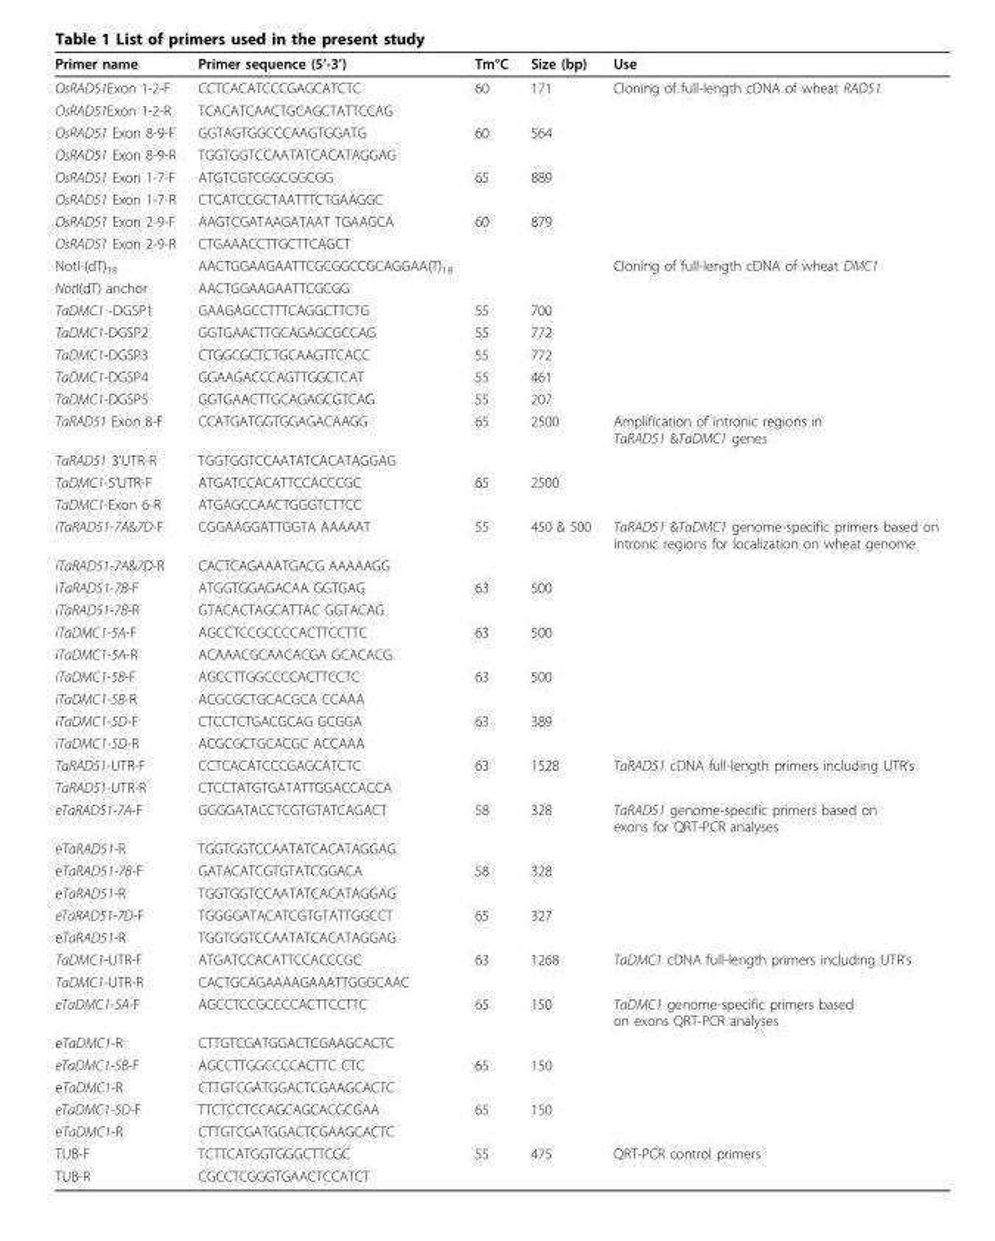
<table><thead><tr><td>Primer name</td><td>Primer sequence (5’-3’)</td><td>Tm°C</td><td>Size (bp)</td><td>Use</td></tr></thead><tbody><tr><td>OsRAD51Exon 1-2-F</td><td>CCTCACATCCCGAGCATCTC</td><td>60</td><td>171</td><td>Cloning of full-length cDNA of wheat RAD51</td></tr><tr><td>OsRAD51Exon 1-2-R</td><td>TCACATCAACTGCAGCTATTCCAG</td><td></td><td></td><td></td></tr><tr><td>OsRAD51 Exon 8-9-F</td><td>GGTAGTGGCCCAAGTGGATG</td><td>60</td><td>564</td><td></td></tr><tr><td>OsRAD51 Exon 8-9-R</td><td>TGGTGGTCCAATATCACATAGGAG</td><td></td><td></td><td></td></tr><tr><td>OsRAD51 Exon 1-7-F</td><td>ATGTCGTCGGCGGCGG</td><td>65</td><td>889</td><td></td></tr><tr><td>OsRAD51 Exon 1-7-R</td><td>CTCATCCGCTAATTTCTGAAGGC</td><td></td><td></td><td></td></tr><tr><td>OsRAD51 Exon 2-9-F</td><td>AAGTCGATAAGATAAT TGAAGCA</td><td>60</td><td>879</td><td></td></tr><tr><td>OsRAD51 Exon 2-9-R</td><td>CTGAAACCTTGCTTCAGCT</td><td></td><td></td><td></td></tr><tr><td>NotI-(dT)<sub>18</sub></td><td>AACTGGAAGAATTCGCGGCCGCAGGAA(T)<sub>18</sub></td><td></td><td></td><td>Cloning of full-length cDNA of wheat DMC1</td></tr><tr><td>NotI(dT) anchor</td><td>AACTGGAAGAATTCGCGG</td><td></td><td></td><td></td></tr><tr><td>TaDMC1 -DGSP1</td><td>GAAGAGCCTTTCAGGCTTCTG</td><td>55</td><td>700</td><td></td></tr><tr><td>TaDMC1-DGSP2</td><td>GGTGAACTTGCAGAGCGCCAG</td><td>55</td><td>772</td><td></td></tr><tr><td>TaDMC1-DGSP3</td><td>CTGGCGCTCTGCAAGTTCACC</td><td>55</td><td>772</td><td></td></tr><tr><td>TaDMC1-DGSP4</td><td>GGAAGACCCAGTTGGCTCAT</td><td>55</td><td>461</td><td></td></tr><tr><td>TaDMC1-DGSP5</td><td>GGTGAACTTGCAGAGCGTCAG</td><td>55</td><td>207</td><td></td></tr><tr><td>TaRAD51 Exon 8-F</td><td>CCATGATGGTGGAGACAAGG</td><td>65</td><td>2500</td><td>Amplification of intronic regions in TaRAD51 &amp;TaDMC1 genes</td></tr><tr><td>TaRAD51 3’UTR-R</td><td>TGGTGGTCCAATATCACATAGGAG</td><td></td><td></td><td></td></tr><tr><td>TaDMC1-5’UTR-F</td><td>ATGATCCACATTCCACCCGC</td><td>65</td><td>2500</td><td></td></tr><tr><td>TaDMC1-Exon 6-R</td><td>ATGAGCCAACTGGGTCTTCC</td><td></td><td></td><td></td></tr><tr><td>iTaRAD51-7A&amp;7D-F</td><td>CGGAAGGATTGGTA AAAAAT</td><td>55</td><td>450 &amp; 500</td><td>TaRAD51 &amp;TaDMC1 genome-specific primers based on intronic regions for localization on wheat genome</td></tr><tr><td>iTaRAD51-7A&amp;7D-R</td><td>CACTCAGAAATGACG AAAAAGG</td><td></td><td></td><td></td></tr><tr><td>iTaRAD51-7B-F</td><td>ATGGTGGAGACAA GGTGAG</td><td>63</td><td>500</td><td></td></tr><tr><td>iTaRAD51-7B-R</td><td>GTACACTAGCATTAC GGTACAG</td><td></td><td></td><td></td></tr><tr><td>iTaDMC1-5A-F</td><td>AGCCTCCGCCCCACTTCCTTC</td><td>63</td><td>500</td><td></td></tr><tr><td>iTaDMC1-5A-R</td><td>ACAAACGCAACACGA GCACACG</td><td></td><td></td><td></td></tr><tr><td>iTaDMC1-5B-F</td><td>AGCCTTGGCCCCACTTCCTC</td><td>63</td><td>500</td><td></td></tr><tr><td>iTaDMC1-5B-R</td><td>ACGCGCTGCACGCA CCAAA</td><td></td><td></td><td></td></tr><tr><td>iTaDMC1-5D-F</td><td>CTCCTCTGACGCAG GCGGA</td><td>63</td><td>389</td><td></td></tr><tr><td>iTaDMC1-5D-R</td><td>ACGCGCTGCACGC ACCAAA</td><td></td><td></td><td></td></tr><tr><td>TaRAD51-UTR-F</td><td>CCTCACATCCCGAGCATCTC</td><td>63</td><td>1528</td><td>TaRAD51 cDNA full-length primers including UTR’s</td></tr><tr><td>TaRAD51-UTR-R</td><td>CTCCTATGTGATATTGGACCACCA</td><td></td><td></td><td></td></tr><tr><td>eTaRAD51-7A-F</td><td>GGGGATACCTCGTGTATCAGACT</td><td>58</td><td>328</td><td>TaRAD51 genome-specific primers based on exons for QRT-PCR analyses</td></tr><tr><td>eTaRAD51-R</td><td>TGGTGGTCCAATATCACATAGGAG</td><td></td><td></td><td></td></tr><tr><td>eTaRAD51-7B-F</td><td>GATACATCGTGTATCGGACA</td><td>58</td><td>328</td><td></td></tr><tr><td>eTaRAD51-R</td><td>TGGTGGTCCAATATCACATAGGAG</td><td></td><td></td><td></td></tr><tr><td>eTaRAD51-7D-F</td><td>TGGGGATACATCGTGTATTGGCCT</td><td>65</td><td>327</td><td></td></tr><tr><td>eTaRAD51-R</td><td>TGGTGGTCCAATATCACATAGGAG</td><td></td><td></td><td></td></tr><tr><td>TaDMC1-UTR-F</td><td>ATGATCCACATTCCACCCGC</td><td>63</td><td>1268</td><td>TaDMC1 cDNA full-length primers including UTR’s</td></tr><tr><td>TaDMC1-UTR-R</td><td>CACTGCAGAAAAGAAATTGGGCAAC</td><td></td><td></td><td></td></tr><tr><td>eTaDMC1-5A-F</td><td>AGCCTCCGCCCCACTTCCTTC</td><td>65</td><td>150</td><td>TaDMC1 genome-specific primers based on exons QRT-PCR analyses</td></tr><tr><td>eTaDMC1-R</td><td>CTTGTCGATGGACTCGAAGCACTC</td><td></td><td></td><td></td></tr><tr><td>eTaDMC1-5B-F</td><td>AGCCTTGGCCCCACTTC CTC</td><td>65</td><td>150</td><td></td></tr><tr><td>eTaDMC1-R</td><td>CTTGTCGATGGACTCGAAGCACTC</td><td></td><td></td><td></td></tr><tr><td>eTaDMC1-5D-F</td><td>TTCTCCTCCAGCAGCACGCGAA</td><td>65</td><td>150</td><td></td></tr><tr><td>eTaDMC1-R</td><td>CTTGTCGATGGACTCGAAGCACTC</td><td></td><td></td><td></td></tr><tr><td>TUB-F</td><td>TCTTCATGGTGGGCTTCGC</td><td>55</td><td>475</td><td>QRT-PCR control primers</td></tr><tr><td>TUB-R</td><td>CGCCTCGGGTGAACTCCATCT</td><td></td><td></td><td></td></tr></tbody></table>